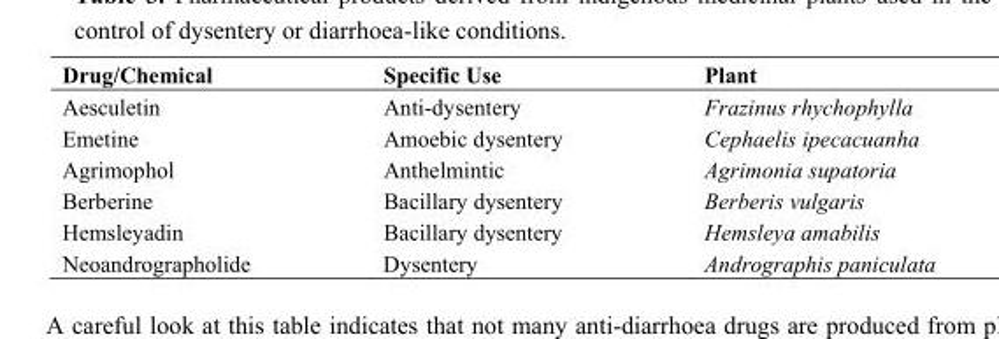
<table><thead><tr><td>Drug/Chemical</td><td>Specific Use</td><td>Plant</td></tr></thead><tbody><tr><td>Aesculetin</td><td>Anti-dysentery</td><td>Frazinus rhychophylla</td></tr><tr><td>Emetine</td><td>Amoebic dysentery</td><td>Cephaelis ipecacuanha</td></tr><tr><td>Agrimophol</td><td>Anthelmintic</td><td>Agrimonia supatoria</td></tr><tr><td>Berberine</td><td>Bacillary dysentery</td><td>Berberis vulgaris</td></tr><tr><td>Hemsleyadin</td><td>Bacillary dysentery</td><td>Hemsleya amabilis</td></tr><tr><td>Neoandrographolide</td><td>Dysentery</td><td>Andrographis paniculata</td></tr></tbody></table>